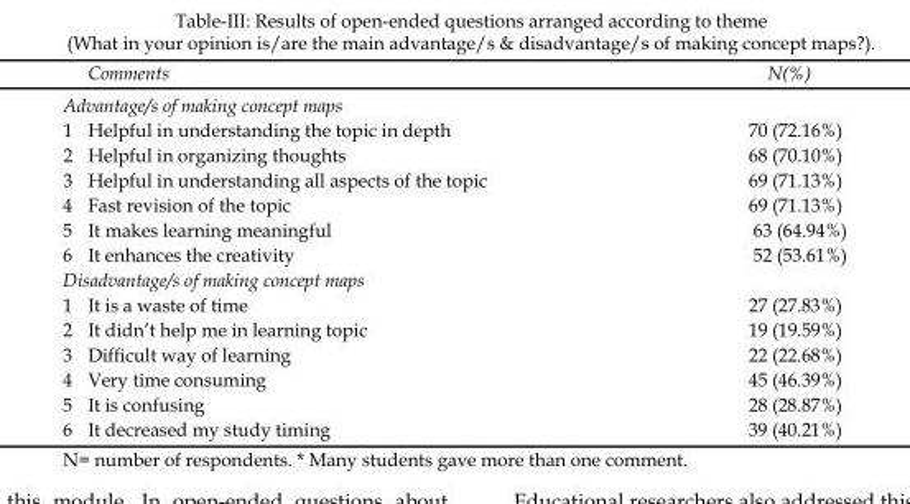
<table><thead><tr><td>Comments</td><td>N(%)</td></tr></thead><tbody><tr><td colspan="2">Advantage/s of making concept maps</td></tr><tr><td>1 Helpful in understanding the topic in depth</td><td>70 (72.16%)</td></tr><tr><td>2 Helpful in organizing thoughts</td><td>68 (70.10%)</td></tr><tr><td>3 Helpful in understanding all aspects of the topic</td><td>69 (71.13%)</td></tr><tr><td>4 Fast revision of the topic</td><td>69 (71.13%)</td></tr><tr><td>5 It makes learning meaningful</td><td>63 (64.94%)</td></tr><tr><td>6 It enhances the creativity</td><td>52 (53.61%)</td></tr><tr><td colspan="2">Disadvantage/s of making concept maps</td></tr><tr><td>1 It is a waste of time</td><td>27 (27.83%)</td></tr><tr><td>2 It didn’t help me in learning topic</td><td>19 (19.59%)</td></tr><tr><td>3 Difficult way of learning</td><td>22 (22.68%)</td></tr><tr><td>4 Very time consuming</td><td>45 (46.39%)</td></tr><tr><td>5 It is confusing</td><td>28 (28.87%)</td></tr><tr><td>6 It decreased my study timing</td><td>39 (40.21%)</td></tr></tbody></table>